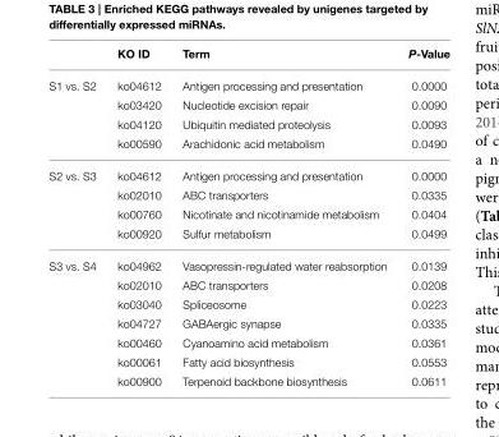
<table><thead><tr><td></td><td>KO ID</td><td>Term</td><td>P-Value</td></tr></thead><tbody><tr><td rowspan="4">S1 vs. S2</td><td>ko04612</td><td>Antigen processing and presentation</td><td>0.0000</td></tr><tr><td>ko03420</td><td>Nucleotide excision repair</td><td>0.0090</td></tr><tr><td>ko04120</td><td>Ubiquitin mediated proteolysis</td><td>0.0093</td></tr><tr><td>ko00590</td><td>Arachidonic acid metabolism</td><td>0.0490</td></tr><tr><td rowspan="4">S2 vs. S3</td><td>ko04612</td><td>Antigen processing and presentation</td><td>0.0000</td></tr><tr><td>ko02010</td><td>ABC transporters</td><td>0.0335</td></tr><tr><td>ko00760</td><td>Nicotinate and nicotinamide metabolism</td><td>0.0404</td></tr><tr><td>ko00920</td><td>Sulfur metabolism</td><td>0.0499</td></tr><tr><td rowspan="7">S3 vs. S4</td><td>ko04962</td><td>Vasopressin-regulated water reabsorption</td><td>0.0139</td></tr><tr><td>ko02010</td><td>ABC transporters</td><td>0.0208</td></tr><tr><td>ko03040</td><td>Spliceosome</td><td>0.0223</td></tr><tr><td>ko04727</td><td>GABAergic synapse</td><td>0.0335</td></tr><tr><td>ko00460</td><td>Cyanoamino acid metabolism</td><td>0.0361</td></tr><tr><td>ko00061</td><td>Fatty acid biosynthesis</td><td>0.0553</td></tr><tr><td>ko00900</td><td>Terpenoid backbone biosynthesis</td><td>0.0611</td></tr></tbody></table>